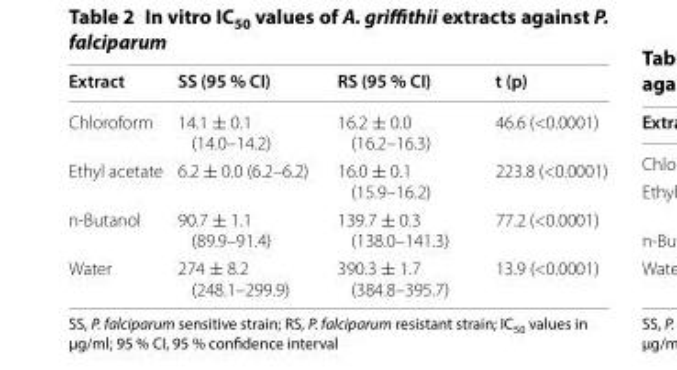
<table><thead><tr><td>Extract</td><td>SS (95 % CI)</td><td>RS (95 % CI)</td><td>t (p)</td></tr></thead><tbody><tr><td>Chloroform</td><td>14.1 ± 0.1 (14.0–14.2)</td><td>16.2 ± 0.0 (16.2–16.3)</td><td>46.6 (&lt;0.0001)</td></tr><tr><td>Ethyl acetate</td><td>6.2 ± 0.0 (6.2–6.2)</td><td>16.0 ± 0.1 (15.9–16.2)</td><td>223.8 (&lt;0.0001)</td></tr><tr><td>n-Butanol</td><td>90.7 ± 1.1 (89.9–91.4)</td><td>139.7 ± 0.3 (138.0–141.3)</td><td>77.2 (&lt;0.0001)</td></tr><tr><td>Water</td><td>274 ± 8.2 (248.1–299.9)</td><td>390.3 ± 1.7 (384.8–395.7)</td><td>13.9 (&lt;0.0001)</td></tr></tbody></table>